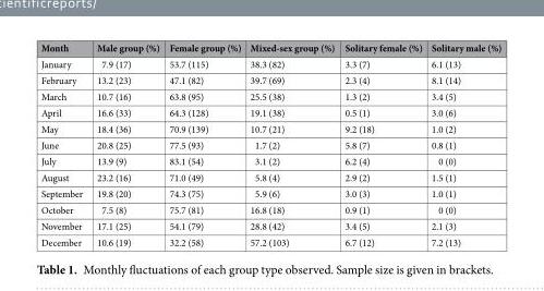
<table><thead><tr><td>Month</td><td>Male group (%)</td><td>Female group (%)</td><td>Mixed-sex group (%)</td><td>Solitary female (%)</td><td>Solitary male (%)</td></tr></thead><tbody><tr><td>January</td><td>7.9 (17)</td><td>53.7 (115)</td><td>38.3 (82)</td><td>3.3 (7)</td><td>6.1 (13)</td></tr><tr><td>February</td><td>13.2 (23)</td><td>47.1 (82)</td><td>39.7 (69)</td><td>2.3 (4)</td><td>8.1 (14)</td></tr><tr><td>March</td><td>10.7 (16)</td><td>63.8 (95)</td><td>25.5 (38)</td><td>1.3 (2)</td><td>3.4 (5)</td></tr><tr><td>April</td><td>16.6 (33)</td><td>64.3 (128)</td><td>19.1 (38)</td><td>0.5 (1)</td><td>3.0 (6)</td></tr><tr><td>May</td><td>18.4 (36)</td><td>70.9 (139)</td><td>10.7 (21)</td><td>9.2 (18)</td><td>1.0 (2)</td></tr><tr><td>June</td><td>20.8 (25)</td><td>77.5 (93)</td><td>1.7 (2)</td><td>5.8 (7)</td><td>0.8 (1)</td></tr><tr><td>July</td><td>13.9 (9)</td><td>83.1 (54)</td><td>3.1 (2)</td><td>6.2 (4)</td><td>0 (0)</td></tr><tr><td>August</td><td>23.2 (16)</td><td>71.0 (49)</td><td>5.8 (4)</td><td>2.9 (2)</td><td>1.5 (1)</td></tr><tr><td>September</td><td>19.8 (20)</td><td>74.3 (75)</td><td>5.9 (6)</td><td>3.0 (3)</td><td>1.0 (1)</td></tr><tr><td>October</td><td>7.5 (8)</td><td>75.7 (81)</td><td>16.8 (18)</td><td>0.9 (1)</td><td>0 (0)</td></tr><tr><td>November</td><td>17.1 (25)</td><td>54.1 (79)</td><td>28.8 (42)</td><td>3.4 (5)</td><td>2.1 (3)</td></tr><tr><td>December</td><td>10.6 (19)</td><td>32.2 (58)</td><td>57.2 (103)</td><td>6.7 (12)</td><td>7.2 (13)</td></tr></tbody></table>